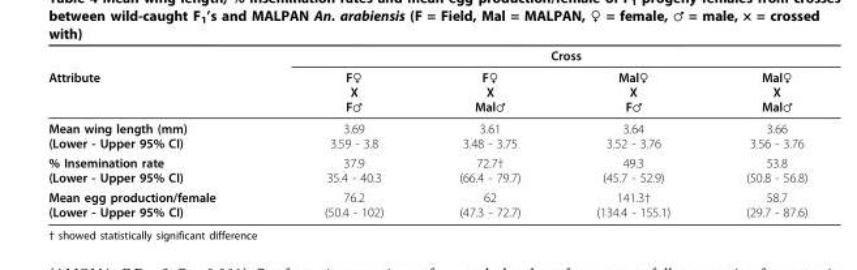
<table><thead><tr><td rowspan="2">Attribute</td><td colspan="4">Cross</td></tr><tr><td>F♀ X F♂</td><td>F♀ X Mal♂</td><td>Mal♀ X F♂</td><td>Mal♀ X Mal♂</td></tr></thead><tbody><tr><td>Mean wing length (mm) (Lower - Upper 95% CI)</td><td>3.69 3.59 - 3.8</td><td>3.61 3.48 - 3.75</td><td>3.64 3.52 - 3.76</td><td>3.66 3.56 - 3.76</td></tr><tr><td>% Insemination rate (Lower - Upper 95% CI)</td><td>37.9 35.4 - 40.3</td><td>72.7† (66.4 - 79.7)</td><td>49.3 (45.7 - 52.9)</td><td>53.8 (50.8 - 56.8)</td></tr><tr><td>Mean egg production/female (Lower - Upper 95% CI)</td><td>76.2 (50.4 - 102)</td><td>62 (47.3 - 72.7)</td><td>141.3† (134.4 - 155.1)</td><td>58.7 (29.7 - 87.6)</td></tr></tbody></table>